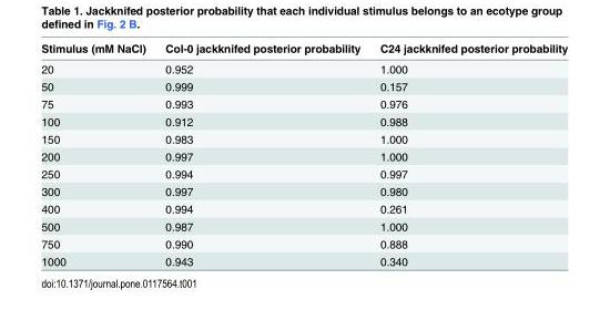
<table><thead><tr><td>Stimulus (mM NaCl)</td><td>Col-0 jackknifed posterior probability</td><td>C24 jackknifed posterior probability</td></tr></thead><tbody><tr><td>20</td><td>0.952</td><td>1.000</td></tr><tr><td>50</td><td>0.999</td><td>0.157</td></tr><tr><td>75</td><td>0.993</td><td>0.976</td></tr><tr><td>100</td><td>0.912</td><td>0.988</td></tr><tr><td>150</td><td>0.983</td><td>1.000</td></tr><tr><td>200</td><td>0.997</td><td>1.000</td></tr><tr><td>250</td><td>0.994</td><td>0.997</td></tr><tr><td>300</td><td>0.997</td><td>0.980</td></tr><tr><td>400</td><td>0.994</td><td>0.261</td></tr><tr><td>500</td><td>0.987</td><td>1.000</td></tr><tr><td>750</td><td>0.990</td><td>0.888</td></tr><tr><td>1000</td><td>0.943</td><td>0.340</td></tr></tbody></table>